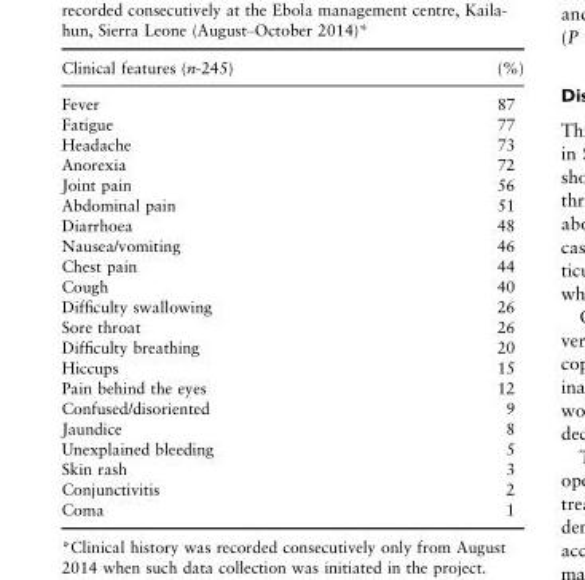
<table><thead><tr><td>Clinical features (n-245)</td><td>(%)</td></tr></thead><tbody><tr><td>Fever</td><td>87</td></tr><tr><td>Fatigue</td><td>77</td></tr><tr><td>Headache</td><td>73</td></tr><tr><td>Anorexia</td><td>72</td></tr><tr><td>Joint pain</td><td>56</td></tr><tr><td>Abdominal pain</td><td>51</td></tr><tr><td>Diarrhoea</td><td>48</td></tr><tr><td>Nausea/vomiting</td><td>46</td></tr><tr><td>Chest pain</td><td>44</td></tr><tr><td>Cough</td><td>40</td></tr><tr><td>Difficulty swallowing</td><td>26</td></tr><tr><td>Sore throat</td><td>26</td></tr><tr><td>Difficulty breathing</td><td>20</td></tr><tr><td>Hiccups</td><td>15</td></tr><tr><td>Pain behind the eyes</td><td>12</td></tr><tr><td>Confused/disoriented</td><td>9</td></tr><tr><td>Jaundice</td><td>8</td></tr><tr><td>Unexplained bleeding</td><td>5</td></tr><tr><td>Skin rash</td><td>3</td></tr><tr><td>Conjunctivitis</td><td>2</td></tr><tr><td>Coma</td><td>1</td></tr></tbody></table>